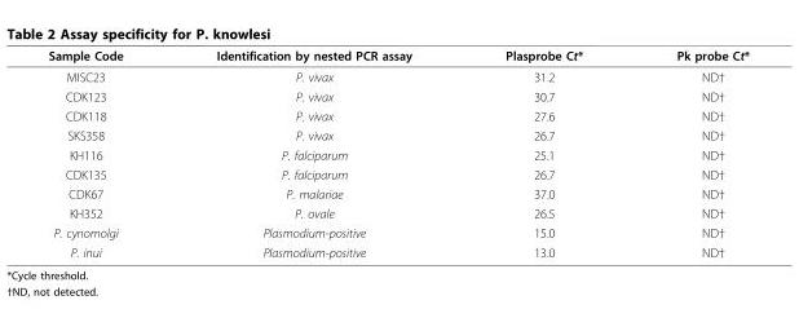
<table><thead><tr><td>Sample Code</td><td>Identification by nested PCR assay</td><td>Plasprobe Ct*</td><td>Pk probe Ct*</td></tr></thead><tbody><tr><td>MISC23</td><td>P. vivax</td><td>31.2</td><td>ND†</td></tr><tr><td>CDK123</td><td>P. vivax</td><td>30.7</td><td>ND†</td></tr><tr><td>CDK118</td><td>P. vivax</td><td>27.6</td><td>ND†</td></tr><tr><td>SKS358</td><td>P. vivax</td><td>26.7</td><td>ND†</td></tr><tr><td>KH116</td><td>P. falciparum</td><td>25.1</td><td>ND†</td></tr><tr><td>CDK135</td><td>P. falciparum</td><td>26.7</td><td>ND†</td></tr><tr><td>CDK67</td><td>P. malariae</td><td>37.0</td><td>ND†</td></tr><tr><td>KH352</td><td>P. ovale</td><td>26.5</td><td>ND†</td></tr><tr><td>P. cynomolgi</td><td>Plasmodium-positive</td><td>15.0</td><td>ND†</td></tr><tr><td>P. inui</td><td>Plasmodium-positive</td><td>13.0</td><td>ND†</td></tr></tbody></table>